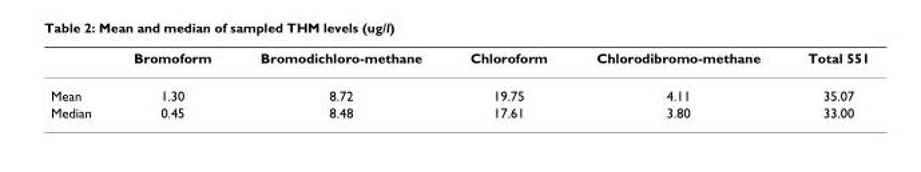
<table><thead><tr><td></td><td>Bromoform</td><td>Bromodichloro-methane</td><td>Chloroform</td><td>Chlorodibromo-methane</td><td>Total 551</td></tr></thead><tbody><tr><td>Mean</td><td>1.30</td><td>8.72</td><td>19.75</td><td>4.11</td><td>35.07</td></tr><tr><td>Median</td><td>0.45</td><td>8.48</td><td>17.61</td><td>3.80</td><td>33.00</td></tr></tbody></table>